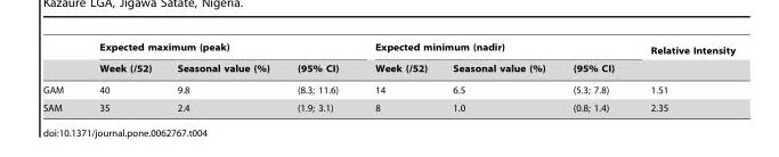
<table><thead><tr><td rowspan="2"></td><td colspan="3">Expected maximum (peak)</td><td colspan="3">Expected minimum (nadir)</td><td rowspan="2">Relative Intensity</td></tr><tr><td>Week (/52)</td><td>Seasonal value (%)</td><td>(95% CI)</td><td>Week (/52)</td><td>Seasonal value (%)</td><td>(95% CI)</td></tr></thead><tbody><tr><td>GAM</td><td>40</td><td>9.8</td><td>(8.3; 11.6)</td><td>14</td><td>6.5</td><td>(5.3; 7.8)</td><td>1.51</td></tr><tr><td>SAM</td><td>35</td><td>2.4</td><td>(1.9; 3.1)</td><td>8</td><td>1.0</td><td>(0.8; 1.4)</td><td>2.35</td></tr></tbody></table>